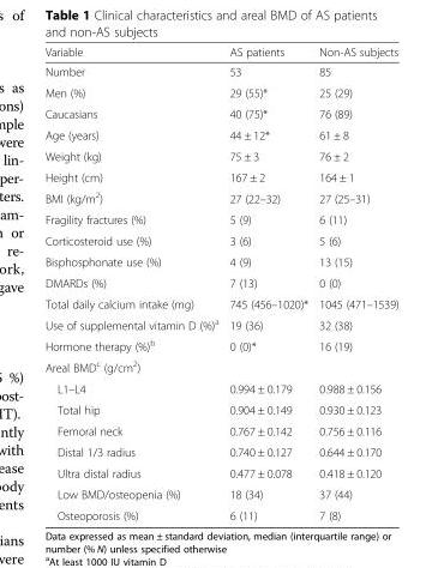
<table><thead><tr><td>Variable</td><td>AS patients</td><td>Non-AS subjects</td></tr></thead><tbody><tr><td>Number</td><td>53</td><td>85</td></tr><tr><td>Men (%)</td><td>29 (55)*</td><td>25 (29)</td></tr><tr><td>Caucasians</td><td>40 (75)*</td><td>76 (89)</td></tr><tr><td>Age (years)</td><td>44 ± 12*</td><td>61 ± 8</td></tr><tr><td>Weight (kg)</td><td>75 ± 3</td><td>76 ± 2</td></tr><tr><td>Height (cm)</td><td>167 ± 2</td><td>164 ± 1</td></tr><tr><td>BMI (kg/m<sup>2</sup>)</td><td>27 (22–32)</td><td>27 (25–31)</td></tr><tr><td>Fragility fractures (%)</td><td>5 (9)</td><td>6 (11)</td></tr><tr><td>Corticosteroid use (%)</td><td>3 (6)</td><td>5 (6)</td></tr><tr><td>Bisphosphonate use (%)</td><td>4 (9)</td><td>13 (15)</td></tr><tr><td>DMARDs (%)</td><td>7 (13)</td><td>0 (0)</td></tr><tr><td>Total daily calcium intake (mg)</td><td>745 (456–1020)*</td><td>1045 (471–1539)</td></tr><tr><td>Use of supplemental vitamin D (%)<sup>a</sup></td><td>19 (36)</td><td>32 (38)</td></tr><tr><td>Hormone therapy (%)<sup>b</sup></td><td>0 (0)*</td><td>16 (19)</td></tr><tr><td colspan="3">Areal BMD<sup>c</sup> (g/cm<sup>2</sup>)</td></tr><tr><td>L1–L4</td><td>0.994 ± 0.179</td><td>0.988 ± 0.156</td></tr><tr><td>Total hip</td><td>0.904 ± 0.149</td><td>0.930 ± 0.123</td></tr><tr><td>Femoral neck</td><td>0.767 ± 0.142</td><td>0.756 ± 0.116</td></tr><tr><td>Distal 1/3 radius</td><td>0.740 ± 0.127</td><td>0.644 ± 0.170</td></tr><tr><td>Ultra distal radius</td><td>0.477 ± 0.078</td><td>0.418 ± 0.120</td></tr><tr><td>Low BMD/osteopenia (%)</td><td>18 (34)</td><td>37 (44)</td></tr><tr><td>Osteoporosis (%)</td><td>6 (11)</td><td>7 (8)</td></tr></tbody></table>